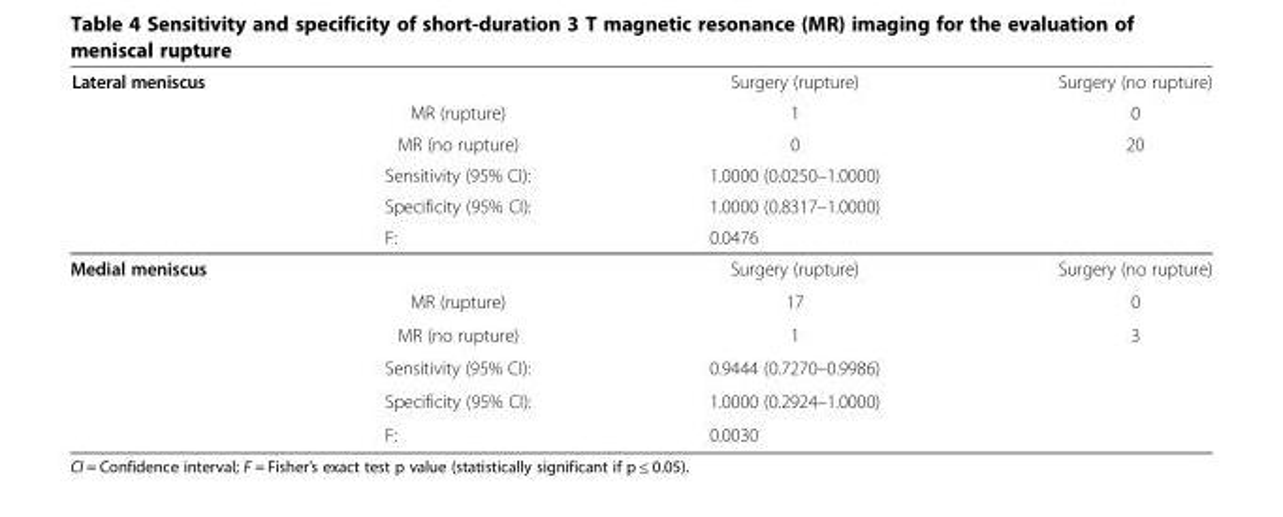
<table><thead><tr><td rowspan="6">Lateral meniscus</td><td rowspan="6">MR (rupture) MR (no rupture) Sensitivity (95% CI): Specificity (95% CI): F:</td><td rowspan="6">Surgery (rupture) 1 0 1.0000 (0.0250–1.0000) 1.0000 (0.8317–1.0000) 0.0476</td><td rowspan="6">Surgery (no rupture) 0 20</td></tr><tr></tr><tr></tr><tr></tr><tr></tr><tr></tr></thead><tbody><tr><td rowspan="6">Medial meniscus</td><td></td><td>Surgery (rupture)</td><td>Surgery (no rupture)</td></tr><tr><td>MR (rupture)</td><td>17</td><td>0</td></tr><tr><td>MR (no rupture)</td><td>1</td><td>3</td></tr><tr><td>Sensitivity (95% CI):</td><td>0.9444 (0.7270–0.9986)</td><td></td></tr><tr><td>Specificity (95% CI):</td><td>1.0000 (0.2924–1.0000)</td><td></td></tr><tr><td>F:</td><td>0.0030</td><td></td></tr></tbody></table>